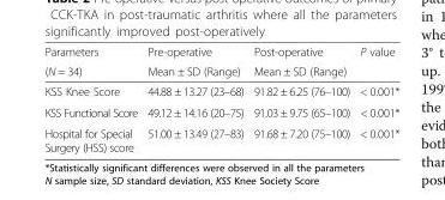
<table><thead><tr><td rowspan="2">Parameters (N = 34)</td><td rowspan="2">Pre-operative Mean ± SD (Range)</td><td rowspan="2">Post-operative Mean ± SD (Range)</td><td rowspan="2">P value</td></tr><tr></tr></thead><tbody><tr><td>KSS Knee Score</td><td>44.88 ± 13.27 (23–68)</td><td>91.82 ± 6.25 (76–100)</td><td>&lt; 0.001*</td></tr><tr><td>KSS Functional Score</td><td>49.12 ± 14.16 (20–75)</td><td>91.03 ± 9.75 (65–100)</td><td>&lt; 0.001*</td></tr><tr><td>Hospital for Special Surgery (HSS) score</td><td>51.00 ± 13.49 (27–83)</td><td>91.68 ± 7.20 (75–100)</td><td>&lt; 0.001*</td></tr></tbody></table>